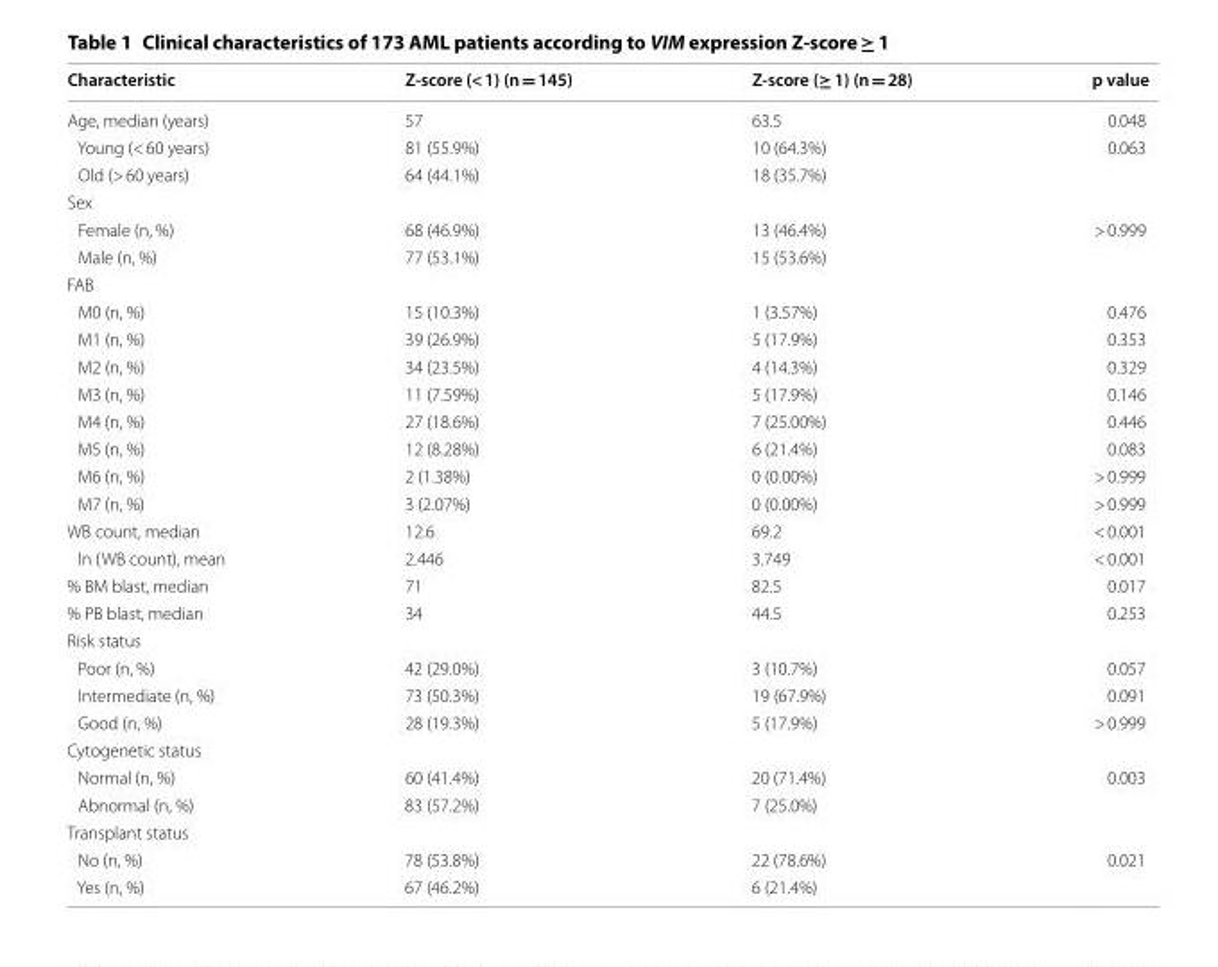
<table><thead><tr><td>Characteristic</td><td>Z‑score (&lt; 1) (n = 145)</td><td>Z‑score (≥ 1) (n = 28)</td><td>p value</td></tr></thead><tbody><tr><td>Age, median (years)</td><td>57</td><td>63.5</td><td>0.048</td></tr><tr><td>Young (&lt; 60 years)</td><td>81 (55.9%)</td><td>10 (64.3%)</td><td>0.063</td></tr><tr><td>Old (&gt; 60 years)</td><td>64 (44.1%)</td><td>18 (35.7%)</td><td></td></tr><tr><td colspan="4">Sex</td></tr><tr><td>Female (n, %)</td><td>68 (46.9%)</td><td>13 (46.4%)</td><td>&gt; 0.999</td></tr><tr><td>Male (n, %)</td><td>77 (53.1%)</td><td>15 (53.6%)</td><td></td></tr><tr><td colspan="4">FAB</td></tr><tr><td>M0 (n, %)</td><td>15 (10.3%)</td><td>1 (3.57%)</td><td>0.476</td></tr><tr><td>M1 (n, %)</td><td>39 (26.9%)</td><td>5 (17.9%)</td><td>0.353</td></tr><tr><td>M2 (n, %)</td><td>34 (23.5%)</td><td>4 (14.3%)</td><td>0.329</td></tr><tr><td>M3 (n, %)</td><td>11 (7.59%)</td><td>5 (17.9%)</td><td>0.146</td></tr><tr><td>M4 (n, %)</td><td>27 (18.6%)</td><td>7 (25.00%)</td><td>0.446</td></tr><tr><td>M5 (n, %)</td><td>12 (8.28%)</td><td>6 (21.4%)</td><td>0.083</td></tr><tr><td>M6 (n, %)</td><td>2 (1.38%)</td><td>0 (0.00%)</td><td>&gt; 0.999</td></tr><tr><td>M7 (n, %)</td><td>3 (2.07%)</td><td>0 (0.00%)</td><td>&gt; 0.999</td></tr><tr><td>WB count, median</td><td>12.6</td><td>69.2</td><td>&lt; 0.001</td></tr><tr><td>ln (WB count), mean</td><td>2.446</td><td>3.749</td><td>&lt; 0.001</td></tr><tr><td>% BM blast, median</td><td>71</td><td>82.5</td><td>0.017</td></tr><tr><td>% PB blast, median</td><td>34</td><td>44.5</td><td>0.253</td></tr><tr><td colspan="4">Risk status</td></tr><tr><td>Poor (n, %)</td><td>42 (29.0%)</td><td>3 (10.7%)</td><td>0.057</td></tr><tr><td>Intermediate (n, %)</td><td>73 (50.3%)</td><td>19 (67.9%)</td><td>0.091</td></tr><tr><td>Good (n, %)</td><td>28 (19.3%)</td><td>5 (17.9%)</td><td>&gt; 0.999</td></tr><tr><td colspan="4">Cytogenetic status</td></tr><tr><td>Normal (n, %)</td><td>60 (41.4%)</td><td>20 (71.4%)</td><td>0.003</td></tr><tr><td>Abnormal (n, %)</td><td>83 (57.2%)</td><td>7 (25.0%)</td><td></td></tr><tr><td colspan="4">Transplant status</td></tr><tr><td>No (n, %)</td><td>78 (53.8%)</td><td>22 (78.6%)</td><td>0.021</td></tr><tr><td>Yes (n, %)</td><td>67 (46.2%)</td><td>6 (21.4%)</td><td></td></tr></tbody></table>